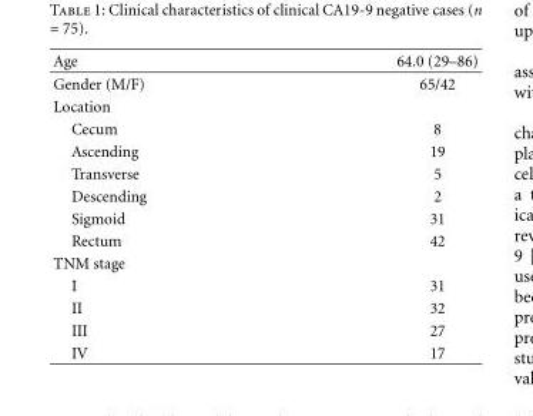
<table><thead><tr><td>Age</td><td>64.0 (29–86)</td></tr></thead><tbody><tr><td>Gender (M/F)</td><td>65/42</td></tr><tr><td colspan="2">Location</td></tr><tr><td>Cecum</td><td>8</td></tr><tr><td>Ascending</td><td>19</td></tr><tr><td>Transverse</td><td>5</td></tr><tr><td>Descending</td><td>2</td></tr><tr><td>Sigmoid</td><td>31</td></tr><tr><td>Rectum</td><td>42</td></tr><tr><td colspan="2">TNM stage</td></tr><tr><td>I</td><td>31</td></tr><tr><td>II</td><td>32</td></tr><tr><td>III</td><td>27</td></tr><tr><td>IV</td><td>17</td></tr></tbody></table>